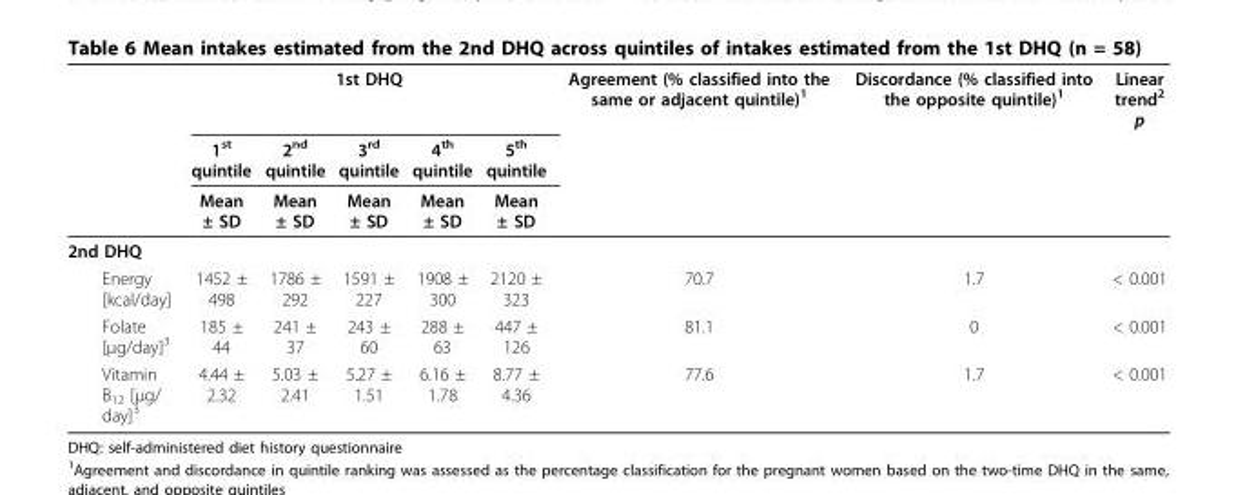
<table><thead><tr><td rowspan="3"></td><td colspan="5">1st DHQ</td><td rowspan="3">Agreement (% classified into the same or adjacent quintile)<sup>1</sup></td><td rowspan="3">Discordance (% classified into the opposite quintile)<sup>1</sup></td><td rowspan="3">Linear trend<sup>2</sup> p</td></tr><tr><td rowspan="2">1<sup>st</sup> quintile Mean ± SD</td><td rowspan="2">2<sup>nd</sup> quintile Mean ± SD</td><td rowspan="2">3<sup>rd</sup> quintile Mean ± SD</td><td rowspan="2">4<sup>th</sup> quintile Mean ± SD</td><td rowspan="2">5<sup>th</sup> quintile Mean ± SD</td></tr><tr></tr></thead><tbody><tr><td colspan="9">2nd DHQ</td></tr><tr><td>Energy [kcal/day]</td><td>1452 ± 498</td><td>1786 ± 292</td><td>1591 ± 227</td><td>1908 ± 300</td><td>2120 ± 323</td><td>70.7</td><td>1.7</td><td>&lt; 0.001</td></tr><tr><td>Folate [μg/day]<sup>3</sup></td><td>185 ± 44</td><td>241 ± 37</td><td>243 ± 60</td><td>288 ± 63</td><td>447 ± 126</td><td>81.1</td><td>0</td><td>&lt; 0.001</td></tr><tr><td>Vitamin B<sub>12</sub> [μg/ day]<sup>3</sup></td><td>4.44 ± 2.32</td><td>5.03 ± 2.41</td><td>5.27 ± 1.51</td><td>6.16 ± 1.78</td><td>8.77 ± 4.36</td><td>77.6</td><td>1.7</td><td>&lt; 0.001</td></tr></tbody></table>